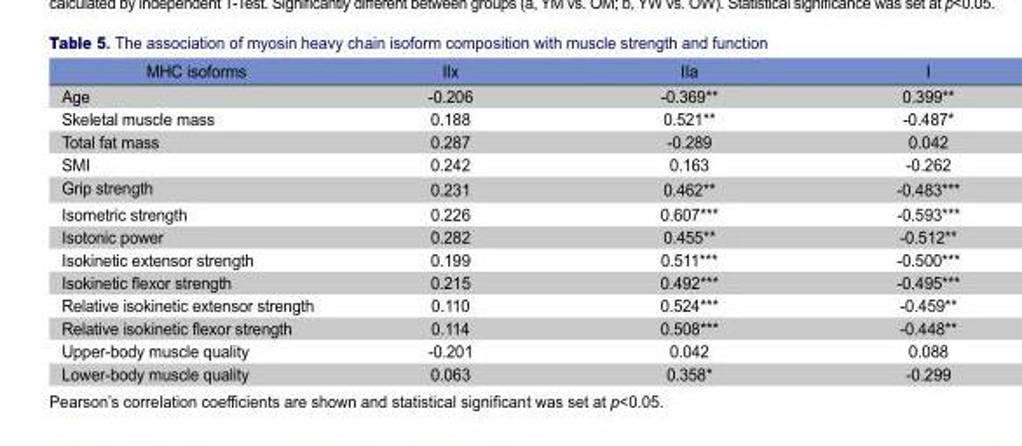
<table><thead><tr><td>MHC isoforms</td><td>IIx</td><td>IIa</td><td>I</td></tr></thead><tbody><tr><td>Age</td><td>-0.206</td><td>-0.369**</td><td>0.399**</td></tr><tr><td>Skeletal muscle mass</td><td>0.188</td><td>0.521**</td><td>-0.487*</td></tr><tr><td>Total fat mass</td><td>0.287</td><td>-0.289</td><td>0.042</td></tr><tr><td>SMI</td><td>0.242</td><td>0.163</td><td>-0.262</td></tr><tr><td>Grip strength</td><td>0.231</td><td>0.462**</td><td>-0.483***</td></tr><tr><td>Isometric strength</td><td>0.226</td><td>0.607***</td><td>-0.593***</td></tr><tr><td>Isotonic power</td><td>0.282</td><td>0.455**</td><td>-0.512**</td></tr><tr><td>Isokinetic extensor strength</td><td>0.199</td><td>0.511***</td><td>-0.500***</td></tr><tr><td>Isokinetic flexor strength</td><td>0.215</td><td>0.492***</td><td>-0.495***</td></tr><tr><td>Relative isokinetic extensor strength</td><td>0.110</td><td>0.524***</td><td>-0.459**</td></tr><tr><td>Relative isokinetic flexor strength</td><td>0.114</td><td>0.508***</td><td>-0.448**</td></tr><tr><td>Upper-body muscle quality</td><td>-0.201</td><td>0.042</td><td>0.088</td></tr><tr><td>Lower-body muscle quality</td><td>0.063</td><td>0.358*</td><td>-0.299</td></tr></tbody></table>